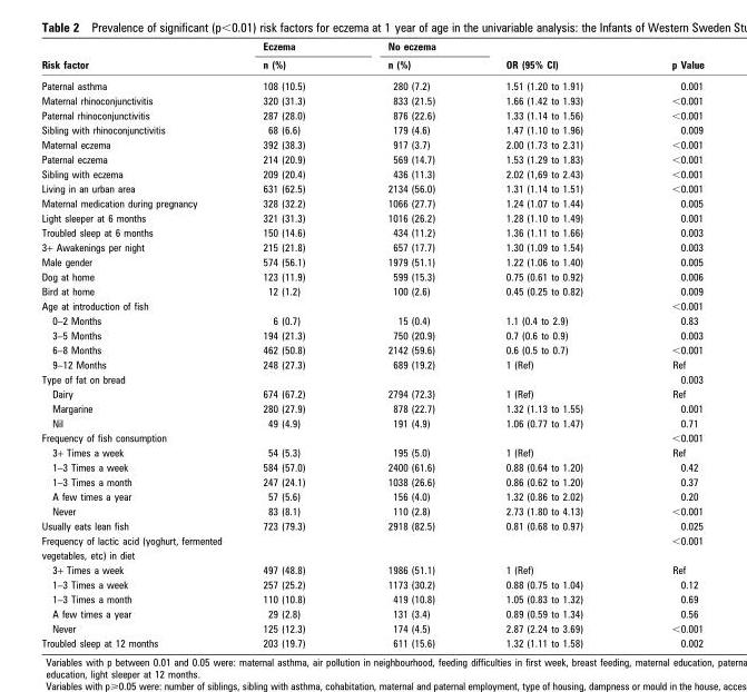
<table><thead><tr><td rowspan="2">Risk factor</td><td rowspan="2">Eczema n (%)</td><td rowspan="2">No eczema n (%)</td><td rowspan="2">OR (95% CI)</td><td rowspan="2">p Value</td></tr><tr></tr></thead><tbody><tr><td>Paternal asthma</td><td>108 (10.5)</td><td>280 (7.2)</td><td>1.51 (1.20 to 1.91)</td><td>0.001</td></tr><tr><td>Maternal rhinoconjunctivitis</td><td>320 (31.3)</td><td>833 (21.5)</td><td>1.66 (1.42 to 1.93)</td><td>&lt;0.001</td></tr><tr><td>Paternal rhinoconjunctivitis</td><td>287 (28.0)</td><td>876 (22.6)</td><td>1.33 (1.14 to 1.56)</td><td>&lt;0.001</td></tr><tr><td>Sibling with rhinoconjunctivitis</td><td>68 (6.6)</td><td>179 (4.6)</td><td>1.47 (1.10 to 1.96)</td><td>0.009</td></tr><tr><td>Maternal eczema</td><td>392 (38.3)</td><td>917 (3.7)</td><td>2.00 (1.73 to 2.31)</td><td>&lt;0.001</td></tr><tr><td>Paternal eczema</td><td>214 (20.9)</td><td>569 (14.7)</td><td>1.53 (1.29 to 1.83)</td><td>&lt;0.001</td></tr><tr><td>Sibling with eczema</td><td>209 (20.4)</td><td>436 (11.3)</td><td>2.02 (1,69 to 2.43)</td><td>&lt;0.001</td></tr><tr><td>Living in an urban area</td><td>631 (62.5)</td><td>2134 (56.0)</td><td>1.31 (1.14 to 1.51)</td><td>&lt;0.001</td></tr><tr><td>Maternal medication during pregnancy</td><td>328 (32.2)</td><td>1066 (27.7)</td><td>1.24 (1.07 to 1.44)</td><td>0.005</td></tr><tr><td>Light sleeper at 6 months</td><td>321 (31.3)</td><td>1016 (26.2)</td><td>1.28 (1.10 to 1.49)</td><td>0.001</td></tr><tr><td>Troubled sleep at 6 months</td><td>150 (14.6)</td><td>434 (11.2)</td><td>1.36 (1.11 to 1.66)</td><td>0.003</td></tr><tr><td>3+ Awakenings per night</td><td>215 (21.8)</td><td>657 (17.7)</td><td>1.30 (1.09 to 1.54)</td><td>0.003</td></tr><tr><td>Male gender</td><td>574 (56.1)</td><td>1979 (51.1)</td><td>1.22 (1.06 to 1.40)</td><td>0.005</td></tr><tr><td>Dog at home</td><td>123 (11.9)</td><td>599 (15.3)</td><td>0.75 (0.61 to 0.92)</td><td>0.006</td></tr><tr><td>Bird at home</td><td>12 (1.2)</td><td>100 (2.6)</td><td>0.45 (0.25 to 0.82)</td><td>0.009</td></tr><tr><td>Age at introduction of fish</td><td></td><td></td><td></td><td>&lt;0.001</td></tr><tr><td>0–2 Months</td><td>6 (0.7)</td><td>15 (0.4)</td><td>1.1 (0.4 to 2.9)</td><td>0.83</td></tr><tr><td>3–5 Months</td><td>194 (21.3)</td><td>750 (20.9)</td><td>0.7 (0.6 to 0.9)</td><td>0.003</td></tr><tr><td>6–8 Months</td><td>462 (50.8)</td><td>2142 (59.6)</td><td>0.6 (0.5 to 0.7)</td><td>&lt;0.001</td></tr><tr><td>9–12 Months</td><td>248 (27.3)</td><td>689 (19.2)</td><td>1 (Ref)</td><td>Ref</td></tr><tr><td>Type of fat on bread</td><td></td><td></td><td></td><td>0.003</td></tr><tr><td>Dairy</td><td>674 (67.2)</td><td>2794 (72.3)</td><td>1 (Ref)</td><td>Ref</td></tr><tr><td>Margarine</td><td>280 (27.9)</td><td>878 (22.7)</td><td>1.32 (1.13 to 1.55)</td><td>0.001</td></tr><tr><td>Nil</td><td>49 (4.9)</td><td>191 (4.9)</td><td>1.06 (0.77 to 1.47)</td><td>0.71</td></tr><tr><td>Frequency of fish consumption</td><td></td><td></td><td></td><td>&lt;0.001</td></tr><tr><td>3+ Times a week</td><td>54 (5.3)</td><td>195 (5.0)</td><td>1 (Ref)</td><td>Ref</td></tr><tr><td>1–3 Times a week</td><td>584 (57.0)</td><td>2400 (61.6)</td><td>0.88 (0.64 to 1.20)</td><td>0.42</td></tr><tr><td>1–3 Times a month</td><td>247 (24.1)</td><td>1038 (26.6)</td><td>0.86 (0.62 to 1.20)</td><td>0.37</td></tr><tr><td>A few times a year</td><td>57 (5.6)</td><td>156 (4.0)</td><td>1.32 (0.86 to 2.02)</td><td>0.20</td></tr><tr><td>Never</td><td>83 (8.1)</td><td>110 (2.8)</td><td>2.73 (1.80 to 4.13)</td><td>&lt;0.001</td></tr><tr><td>Usually eats lean fish</td><td>723 (79.3)</td><td>2918 (82.5)</td><td>0.81 (0.68 to 0.97)</td><td>0.025</td></tr><tr><td>Frequency of lactic acid (yoghurt, fermented</td><td></td><td></td><td></td><td>&lt;0.001</td></tr><tr><td colspan="5">vegetables, etc) in diet</td></tr><tr><td>3+ Times a week</td><td>497 (48.8)</td><td>1986 (51.1)</td><td>1 (Ref)</td><td>Ref</td></tr><tr><td>1–3 Times a week</td><td>257 (25.2)</td><td>1173 (30.2)</td><td>0.88 (0.75 to 1.04)</td><td>0.12</td></tr><tr><td>1–3 Times a month</td><td>110 (10.8)</td><td>419 (10.8)</td><td>1.05 (0.83 to 1.32)</td><td>0.69</td></tr><tr><td>A few times a year</td><td>29 (2.8)</td><td>131 (3.4)</td><td>0.89 (0.59 to 1.34)</td><td>0.56</td></tr><tr><td>Never</td><td>125 (12.3)</td><td>174 (4.5)</td><td>2.87 (2.24 to 3.69)</td><td>&lt;0.001</td></tr><tr><td>Troubled sleep at 12 months</td><td>203 (19.7)</td><td>611 (15.6)</td><td>1.32 (1.11 to 1.58)</td><td>0.002</td></tr></tbody></table>